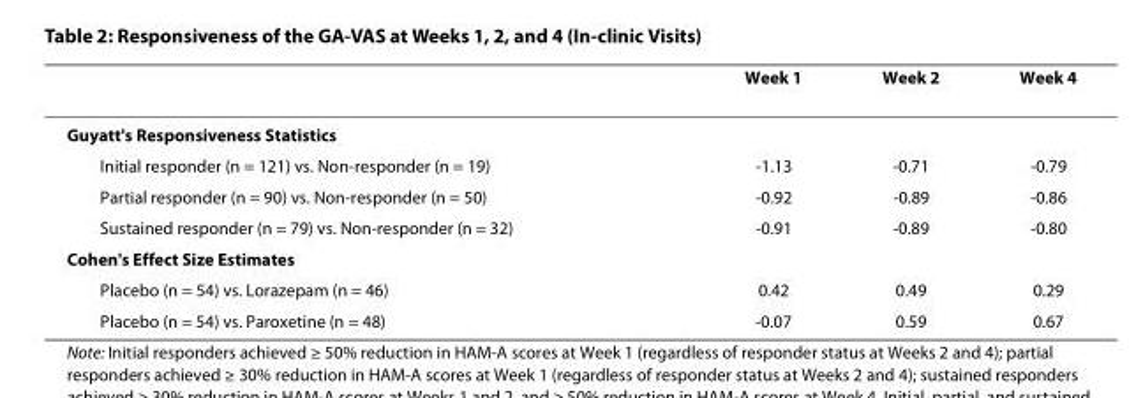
<table><thead><tr><td></td><td>Week 1</td><td>Week 2</td><td>Week 4</td></tr></thead><tbody><tr><td colspan="4">Guyatt&#x27;s Responsiveness Statistics</td></tr><tr><td>Initial responder (n = 121) vs. Non-responder (n = 19)</td><td>-1.13</td><td>-0.71</td><td>-0.79</td></tr><tr><td>Partial responder (n = 90) vs. Non-responder (n = 50)</td><td>-0.92</td><td>-0.89</td><td>-0.86</td></tr><tr><td>Sustained responder (n = 79) vs. Non-responder (n = 32)</td><td>-0.91</td><td>-0.89</td><td>-0.80</td></tr><tr><td colspan="4">Cohen&#x27;s Effect Size Estimates</td></tr><tr><td>Placebo (n = 54) vs. Lorazepam (n = 46)</td><td>0.42</td><td>0.49</td><td>0.29</td></tr><tr><td>Placebo (n = 54) vs. Paroxetine (n = 48)</td><td>-0.07</td><td>0.59</td><td>0.67</td></tr></tbody></table>